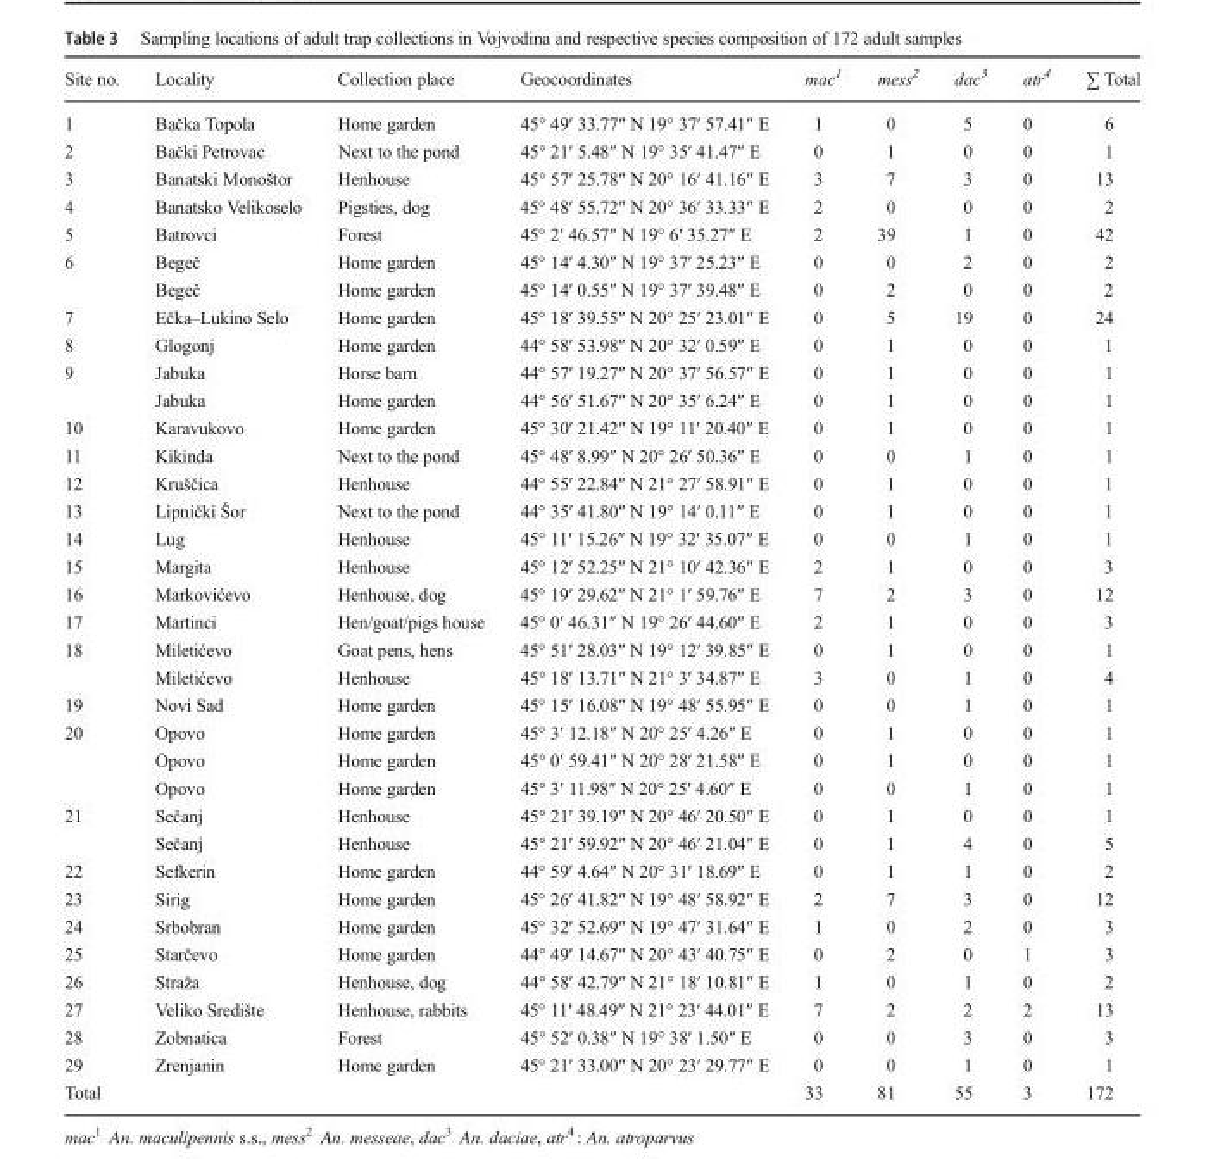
<table><thead><tr><td>Site no.</td><td>Locality</td><td>Collection place</td><td>Geocoordinates</td><td>mac<sup>1</sup></td><td>mess<sup>2</sup></td><td>dac<sup>3</sup></td><td>atr<sup>4</sup></td><td>∑ Total</td></tr></thead><tbody><tr><td>1</td><td>Bačka Topola</td><td>Home garden</td><td>45° 49′ 33.77″ N 19° 37′ 57.41″ E</td><td>1</td><td>0</td><td>5</td><td>0</td><td>6</td></tr><tr><td>2</td><td>Bački Petrovac</td><td>Next to the pond</td><td>45° 21′ 5.48″ N 19° 35′ 41.47″ E</td><td>0</td><td>1</td><td>0</td><td>0</td><td>1</td></tr><tr><td>3</td><td>Banatski Monoštor</td><td>Henhouse</td><td>45° 57′ 25.78″ N 20° 16′ 41.16″ E</td><td>3</td><td>7</td><td>3</td><td>0</td><td>13</td></tr><tr><td>4</td><td>Banatsko Velikoselo</td><td>Pigsties, dog</td><td>45° 48′ 55.72″ N 20° 36′ 33.33″ E</td><td>2</td><td>0</td><td>0</td><td>0</td><td>2</td></tr><tr><td>5</td><td>Batrovci</td><td>Forest</td><td>45° 2′ 46.57″ N 19° 6′ 35.27″ E</td><td>2</td><td>39</td><td>1</td><td>0</td><td>42</td></tr><tr><td rowspan="2">6</td><td>Begeč</td><td>Home garden</td><td>45° 14′ 4.30″ N 19° 37′ 25.23″ E</td><td>0</td><td>0</td><td>2</td><td>0</td><td>2</td></tr><tr><td>Begeč</td><td>Home garden</td><td>45° 14′ 0.55″ N 19° 37′ 39.48″ E</td><td>0</td><td>2</td><td>0</td><td>0</td><td>2</td></tr><tr><td>7</td><td>Ečka–Lukino Selo</td><td>Home garden</td><td>45° 18′ 39.55″ N 20° 25′ 23.01″ E</td><td>0</td><td>5</td><td>19</td><td>0</td><td>24</td></tr><tr><td>8</td><td>Glogonj</td><td>Home garden</td><td>44° 58′ 53.98″ N 20° 32′ 0.59″ E</td><td>0</td><td>1</td><td>0</td><td>0</td><td>1</td></tr><tr><td rowspan="2">9</td><td>Jabuka</td><td>Horse barn</td><td>44° 57′ 19.27″ N 20° 37′ 56.57″ E</td><td>0</td><td>1</td><td>0</td><td>0</td><td>1</td></tr><tr><td>Jabuka</td><td>Home garden</td><td>44° 56′ 51.67″ N 20° 35′ 6.24″ E</td><td>0</td><td>1</td><td>0</td><td>0</td><td>1</td></tr><tr><td>10</td><td>Karavukovo</td><td>Home garden</td><td>45° 30′ 21.42″ N 19° 11′ 20.40″ E</td><td>0</td><td>1</td><td>0</td><td>0</td><td>1</td></tr><tr><td>11</td><td>Kikinda</td><td>Next to the pond</td><td>45° 48′ 8.99″ N 20° 26′ 50.36″ E</td><td>0</td><td>0</td><td>1</td><td>0</td><td>1</td></tr><tr><td>12</td><td>Kruščica</td><td>Henhouse</td><td>44° 55′ 22.84″ N 21° 27′ 58.91″ E</td><td>0</td><td>1</td><td>0</td><td>0</td><td>1</td></tr><tr><td>13</td><td>Lipnički Šor</td><td>Next to the pond</td><td>44° 35′ 41.80″ N 19° 14′ 0.11″ E</td><td>0</td><td>1</td><td>0</td><td>0</td><td>1</td></tr><tr><td>14</td><td>Lug</td><td>Henhouse</td><td>45° 11′ 15.26″ N 19° 32′ 35.07″ E</td><td>0</td><td>0</td><td>1</td><td>0</td><td>1</td></tr><tr><td>15</td><td>Margita</td><td>Henhouse</td><td>45° 12′ 52.25″ N 21° 10′ 42.36″ E</td><td>2</td><td>1</td><td>0</td><td>0</td><td>3</td></tr><tr><td>16</td><td>Markovićevo</td><td>Henhouse, dog</td><td>45° 19′ 29.62″ N 21° 1′ 59.76″ E</td><td>7</td><td>2</td><td>3</td><td>0</td><td>12</td></tr><tr><td>17</td><td>Martinci</td><td>Hen/goat/pigs house</td><td>45° 0′ 46.31″ N 19° 26′ 44.60″ E</td><td>2</td><td>1</td><td>0</td><td>0</td><td>3</td></tr><tr><td rowspan="2">18</td><td>Miletićevo</td><td>Goat pens, hens</td><td>45° 51′ 28.03″ N 19° 12′ 39.85″ E</td><td>0</td><td>1</td><td>0</td><td>0</td><td>1</td></tr><tr><td>Miletićevo</td><td>Henhouse</td><td>45° 18′ 13.71″ N 21° 3′ 34.87″ E</td><td>3</td><td>0</td><td>1</td><td>0</td><td>4</td></tr><tr><td>19</td><td>Novi Sad</td><td>Home garden</td><td>45° 15′ 16.08″ N 19° 48′ 55.95″ E</td><td>0</td><td>0</td><td>1</td><td>0</td><td>1</td></tr><tr><td rowspan="3">20</td><td>Opovo</td><td>Home garden</td><td>45° 3′ 12.18″ N 20° 25′ 4.26″ E</td><td>0</td><td>1</td><td>0</td><td>0</td><td>1</td></tr><tr><td>Opovo</td><td>Home garden</td><td>45° 0′ 59.41″ N 20° 28′ 21.58″ E</td><td>0</td><td>1</td><td>0</td><td>0</td><td>1</td></tr><tr><td>Opovo</td><td>Home garden</td><td>45° 3′ 11.98″ N 20° 25′ 4.60″ E</td><td>0</td><td>0</td><td>1</td><td>0</td><td>1</td></tr><tr><td rowspan="2">21</td><td>Sečanj</td><td>Henhouse</td><td>45° 21′ 39.19″ N 20° 46′ 20.50″ E</td><td>0</td><td>1</td><td>0</td><td>0</td><td>1</td></tr><tr><td>Sečanj</td><td>Henhouse</td><td>45° 21′ 59.92″ N 20° 46′ 21.04″ E</td><td>0</td><td>1</td><td>4</td><td>0</td><td>5</td></tr><tr><td>22</td><td>Sefkerin</td><td>Home garden</td><td>44° 59′ 4.64″ N 20° 31′ 18.69″ E</td><td>0</td><td>1</td><td>1</td><td>0</td><td>2</td></tr><tr><td>23</td><td>Sirig</td><td>Home garden</td><td>45° 26′ 41.82″ N 19° 48′ 58.92″ E</td><td>2</td><td>7</td><td>3</td><td>0</td><td>12</td></tr><tr><td>24</td><td>Srbobran</td><td>Home garden</td><td>45° 32′ 52.69″ N 19° 47′ 31.64″ E</td><td>1</td><td>0</td><td>2</td><td>0</td><td>3</td></tr><tr><td>25</td><td>Starčevo</td><td>Home garden</td><td>44° 49′ 14.67″ N 20° 43′ 40.75″ E</td><td>0</td><td>2</td><td>0</td><td>1</td><td>3</td></tr><tr><td>26</td><td>Straža</td><td>Henhouse, dog</td><td>44° 58′ 42.79″ N 21° 18′ 10.81″ E</td><td>1</td><td>0</td><td>1</td><td>0</td><td>2</td></tr><tr><td>27</td><td>Veliko Središte</td><td>Henhouse, rabbits</td><td>45° 11′ 48.49″ N 21° 23′ 44.01″ E</td><td>7</td><td>2</td><td>2</td><td>2</td><td>13</td></tr><tr><td>28</td><td>Zobnatica</td><td>Forest</td><td>45° 52′ 0.38″ N 19° 38′ 1.50″ E</td><td>0</td><td>0</td><td>3</td><td>0</td><td>3</td></tr><tr><td>29</td><td>Zrenjanin</td><td>Home garden</td><td>45° 21′ 33.00″ N 20° 23′ 29.77″ E</td><td>0</td><td>0</td><td>1</td><td>0</td><td>1</td></tr><tr><td colspan="2">Total</td><td></td><td></td><td>33</td><td>81</td><td>55</td><td>3</td><td>172</td></tr></tbody></table>